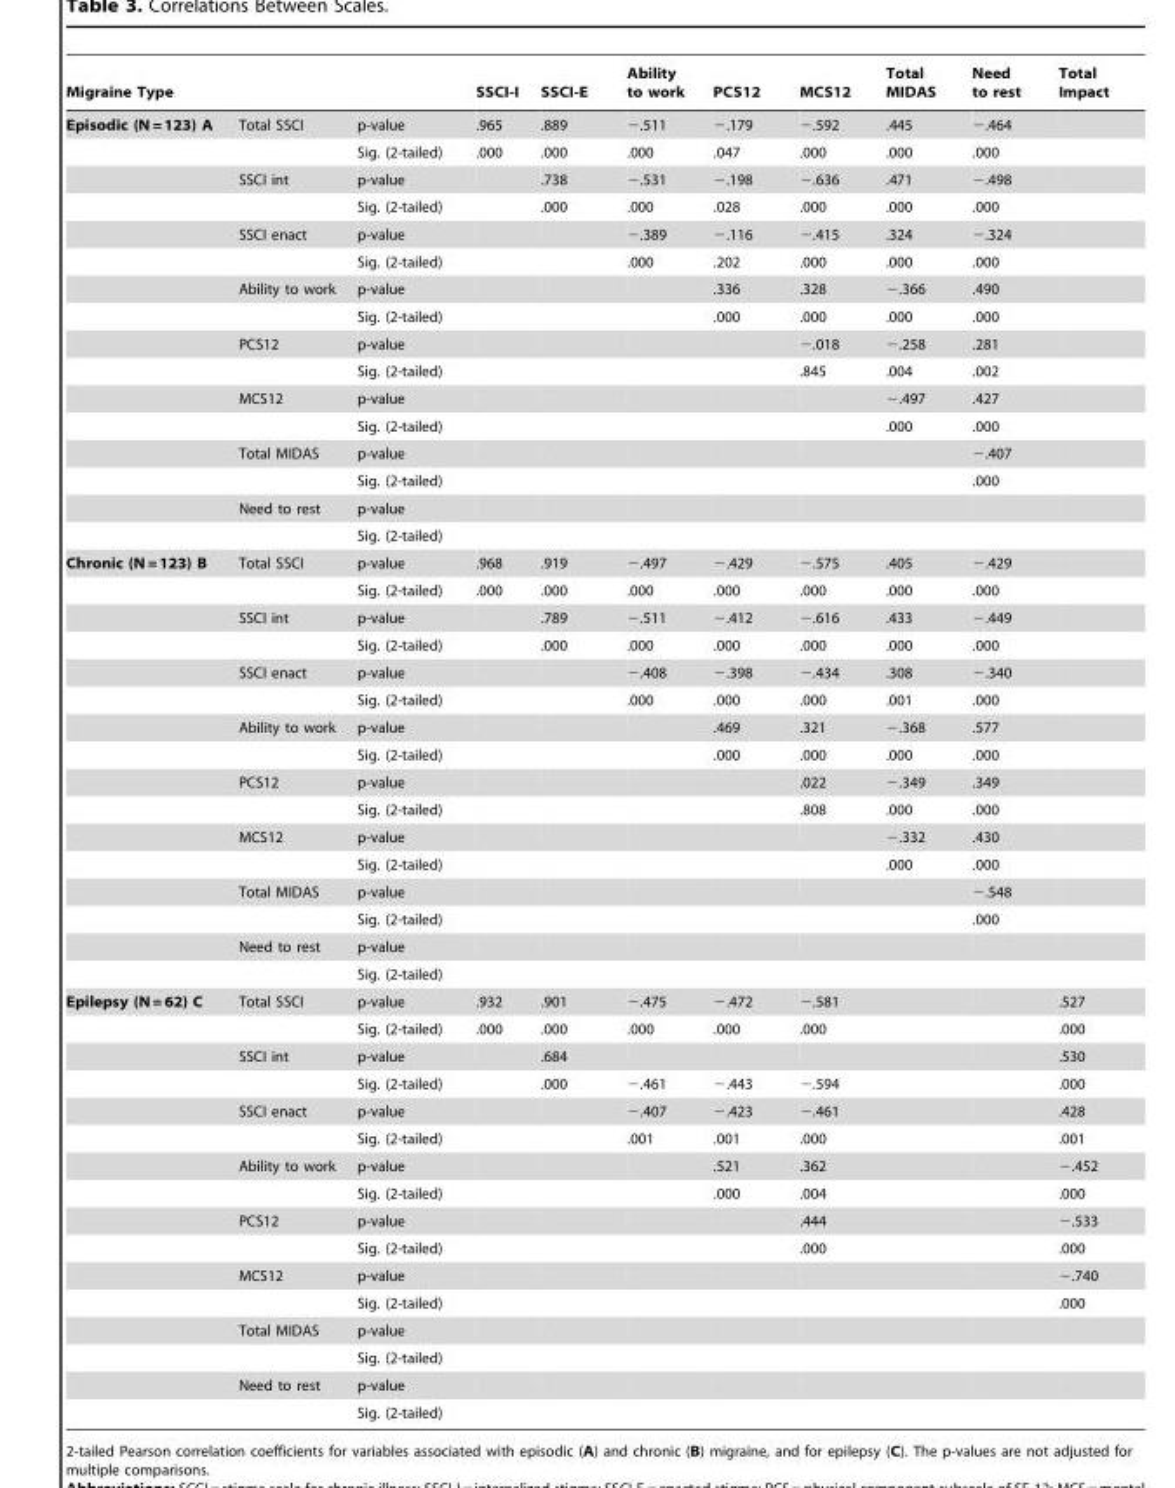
<table><thead><tr><td colspan="3">Migraine Type</td><td rowspan="2">SSCI-I .965</td><td rowspan="2">SSCI-E .889</td><td rowspan="2">Ability to work −.511</td><td rowspan="2">PCS12 −.179</td><td rowspan="2">MCS12 −.592</td><td rowspan="2">Total MIDAS .445</td><td rowspan="2">Need to rest −.464</td><td rowspan="2">Total Impact</td></tr><tr><td>Episodic (N = 123) A</td><td>Total SSCI</td><td>p-value</td></tr></thead><tbody><tr><td></td><td></td><td>Sig. (2-tailed)</td><td>.000</td><td>.000</td><td>.000</td><td>.047</td><td>.000</td><td>.000</td><td>.000</td><td></td></tr><tr><td></td><td>SSCI int</td><td>p-value</td><td></td><td>.738</td><td>−.531</td><td>−.198</td><td>−.636</td><td>.471</td><td>−.498</td><td></td></tr><tr><td></td><td></td><td>Sig. (2-tailed)</td><td></td><td>.000</td><td>.000</td><td>.028</td><td>.000</td><td>.000</td><td>.000</td><td></td></tr><tr><td></td><td>SSCI enact</td><td>p-value</td><td></td><td></td><td>−.389</td><td>−.116</td><td>−.415</td><td>.324</td><td>−.324</td><td></td></tr><tr><td></td><td></td><td>Sig. (2-tailed)</td><td></td><td></td><td>.000</td><td>.202</td><td>.000</td><td>.000</td><td>.000</td><td></td></tr><tr><td></td><td>Ability to work</td><td>p-value</td><td></td><td></td><td></td><td>.336</td><td>.328</td><td>−.366</td><td>.490</td><td></td></tr><tr><td></td><td></td><td>Sig. (2-tailed)</td><td></td><td></td><td></td><td>.000</td><td>.000</td><td>.000</td><td>.000</td><td></td></tr><tr><td></td><td>PCS12</td><td>p-value</td><td></td><td></td><td></td><td></td><td>−.018</td><td>−.258</td><td>.281</td><td></td></tr><tr><td></td><td></td><td>Sig. (2-tailed)</td><td></td><td></td><td></td><td></td><td>.845</td><td>.004</td><td>.002</td><td></td></tr><tr><td></td><td>MCS12</td><td>p-value</td><td></td><td></td><td></td><td></td><td></td><td>−.497</td><td>.427</td><td></td></tr><tr><td></td><td></td><td>Sig. (2-tailed)</td><td></td><td></td><td></td><td></td><td></td><td>.000</td><td>.000</td><td></td></tr><tr><td></td><td>Total MIDAS</td><td>p-value</td><td></td><td></td><td></td><td></td><td></td><td></td><td>−.407</td><td></td></tr><tr><td></td><td></td><td>Sig. (2-tailed)</td><td></td><td></td><td></td><td></td><td></td><td></td><td>.000</td><td></td></tr><tr><td></td><td>Need to rest</td><td>p-value</td><td></td><td></td><td></td><td></td><td></td><td></td><td></td><td></td></tr><tr><td></td><td></td><td>Sig. (2-tailed)</td><td></td><td></td><td></td><td></td><td></td><td></td><td></td><td></td></tr><tr><td rowspan="16">Chronic (N = 123) B</td><td>Total SSCI</td><td>p-value</td><td>.968</td><td>.919</td><td>−.497</td><td>−.429</td><td>−.575</td><td>.405</td><td>−.429</td><td></td></tr><tr><td></td><td>Sig. (2-tailed)</td><td>.000</td><td>.000</td><td>.000</td><td>.000</td><td>.000</td><td>.000</td><td>.000</td><td></td></tr><tr><td>SSCI int</td><td>p-value</td><td></td><td>.789</td><td>−.511</td><td>−.412</td><td>−.616</td><td>.433</td><td>−.449</td><td></td></tr><tr><td></td><td>Sig. (2-tailed)</td><td></td><td>.000</td><td>.000</td><td>.000</td><td>.000</td><td>.000</td><td>.000</td><td></td></tr><tr><td>SSCI enact</td><td>p-value</td><td></td><td></td><td>−.408</td><td>−.398</td><td>−.434</td><td>.308</td><td>−.340</td><td></td></tr><tr><td></td><td>Sig. (2-tailed)</td><td></td><td></td><td>.000</td><td>.000</td><td>.000</td><td>.001</td><td>.000</td><td></td></tr><tr><td>Ability to work</td><td>p-value</td><td></td><td></td><td></td><td>.469</td><td>.321</td><td>−.368</td><td>.577</td><td></td></tr><tr><td></td><td>Sig. (2-tailed)</td><td></td><td></td><td></td><td>.000</td><td>.000</td><td>.000</td><td>.000</td><td></td></tr><tr><td>PCS12</td><td>p-value</td><td></td><td></td><td></td><td></td><td>.022</td><td>−.349</td><td>.349</td><td></td></tr><tr><td></td><td>Sig. (2-tailed)</td><td></td><td></td><td></td><td></td><td>.808</td><td>.000</td><td>.000</td><td></td></tr><tr><td>MCS12</td><td>p-value</td><td></td><td></td><td></td><td></td><td></td><td>−.332</td><td>.430</td><td></td></tr><tr><td></td><td>Sig. (2-tailed)</td><td></td><td></td><td></td><td></td><td></td><td>.000</td><td>.000</td><td></td></tr><tr><td>Total MIDAS</td><td>p-value</td><td></td><td></td><td></td><td></td><td></td><td></td><td>−.548</td><td></td></tr><tr><td></td><td>Sig. (2-tailed)</td><td></td><td></td><td></td><td></td><td></td><td></td><td>.000</td><td></td></tr><tr><td>Need to rest</td><td>p-value</td><td></td><td></td><td></td><td></td><td></td><td></td><td></td><td></td></tr><tr><td></td><td>Sig. (2-tailed)</td><td></td><td></td><td></td><td></td><td></td><td></td><td></td><td></td></tr><tr><td rowspan="16">Epilepsy (N = 62) C</td><td>Total SSCI</td><td>p-value</td><td>.932</td><td>.901</td><td>−.475</td><td>−.472</td><td>−.581</td><td></td><td></td><td>.527</td></tr><tr><td></td><td>Sig. (2-tailed)</td><td>.000</td><td>.000</td><td>.000</td><td>.000</td><td>.000</td><td></td><td></td><td>.000</td></tr><tr><td>SSCI int</td><td>p-value</td><td></td><td>.684</td><td></td><td></td><td></td><td></td><td></td><td>.530</td></tr><tr><td></td><td>Sig. (2-tailed)</td><td></td><td>.000</td><td>−.461</td><td>−.443</td><td>−.594</td><td></td><td></td><td>.000</td></tr><tr><td>SSCI enact</td><td>p-value</td><td></td><td></td><td>−.407</td><td>−.423</td><td>−.461</td><td></td><td></td><td>.428</td></tr><tr><td></td><td>Sig. (2-tailed)</td><td></td><td></td><td>.001</td><td>.001</td><td>.000</td><td></td><td></td><td>.001</td></tr><tr><td>Ability to work</td><td>p-value</td><td></td><td></td><td></td><td>.521</td><td>.362</td><td></td><td></td><td>−.452</td></tr><tr><td></td><td>Sig. (2-tailed)</td><td></td><td></td><td></td><td>.000</td><td>.004</td><td></td><td></td><td>.000</td></tr><tr><td>PCS12</td><td>p-value</td><td></td><td></td><td></td><td></td><td>.444</td><td></td><td></td><td>−.533</td></tr><tr><td></td><td>Sig. (2-tailed)</td><td></td><td></td><td></td><td></td><td>.000</td><td></td><td></td><td>.000</td></tr><tr><td>MCS12</td><td>p-value</td><td></td><td></td><td></td><td></td><td></td><td></td><td></td><td>−.740</td></tr><tr><td></td><td>Sig. (2-tailed)</td><td></td><td></td><td></td><td></td><td></td><td></td><td></td><td>.000</td></tr><tr><td>Total MIDAS</td><td>p-value</td><td></td><td></td><td></td><td></td><td></td><td></td><td></td><td></td></tr><tr><td></td><td>Sig. (2-tailed)</td><td></td><td></td><td></td><td></td><td></td><td></td><td></td><td></td></tr><tr><td>Need to rest</td><td>p-value</td><td></td><td></td><td></td><td></td><td></td><td></td><td></td><td></td></tr><tr><td></td><td>Sig. (2-tailed)</td><td></td><td></td><td></td><td></td><td></td><td></td><td></td><td></td></tr></tbody></table>